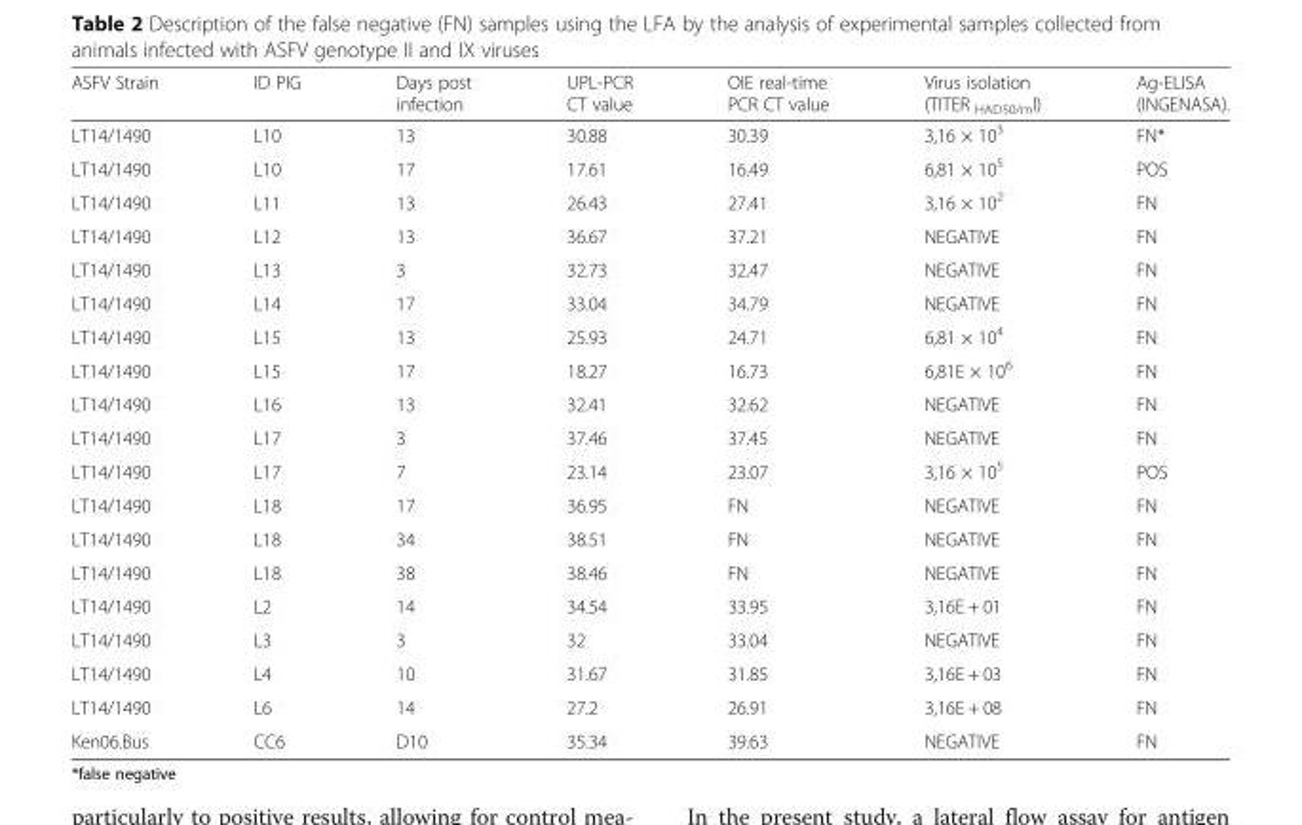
<table><thead><tr><td>ASFV Strain</td><td>ID PIG</td><td>Days post infection</td><td>UPL-PCR CT value</td><td>OIE real-time PCR CT value</td><td>Virus isolation (TITER <sub>HAD50/m</sub>l)</td><td>Ag-ELISA (INGENASA).</td></tr></thead><tbody><tr><td>LT14/1490</td><td>L10</td><td>13</td><td>30.88</td><td>30.39</td><td>3,16 × 10<sup>3</sup></td><td>FN*</td></tr><tr><td>LT14/1490</td><td>L10</td><td>17</td><td>17.61</td><td>16.49</td><td>6,81 × 10<sup>5</sup></td><td>POS</td></tr><tr><td>LT14/1490</td><td>L11</td><td>13</td><td>26.43</td><td>27.41</td><td>3,16 × 10<sup>2</sup></td><td>FN</td></tr><tr><td>LT14/1490</td><td>L12</td><td>13</td><td>36.67</td><td>37.21</td><td>NEGATIVE</td><td>FN</td></tr><tr><td>LT14/1490</td><td>L13</td><td>3</td><td>32.73</td><td>32.47</td><td>NEGATIVE</td><td>FN</td></tr><tr><td>LT14/1490</td><td>L14</td><td>17</td><td>33.04</td><td>34.79</td><td>NEGATIVE</td><td>FN</td></tr><tr><td>LT14/1490</td><td>L15</td><td>13</td><td>25.93</td><td>24.71</td><td>6,81 × 10<sup>4</sup></td><td>FN</td></tr><tr><td>LT14/1490</td><td>L15</td><td>17</td><td>18.27</td><td>16.73</td><td>6,81E × 10<sup>6</sup></td><td>FN</td></tr><tr><td>LT14/1490</td><td>L16</td><td>13</td><td>32.41</td><td>32.62</td><td>NEGATIVE</td><td>FN</td></tr><tr><td>LT14/1490</td><td>L17</td><td>3</td><td>37.46</td><td>37.45</td><td>NEGATIVE</td><td>FN</td></tr><tr><td>LT14/1490</td><td>L17</td><td>7</td><td>23.14</td><td>23.07</td><td>3,16 × 10<sup>5</sup></td><td>POS</td></tr><tr><td>LT14/1490</td><td>L18</td><td>17</td><td>36.95</td><td>FN</td><td>NEGATIVE</td><td>FN</td></tr><tr><td>LT14/1490</td><td>L18</td><td>34</td><td>38.51</td><td>FN</td><td>NEGATIVE</td><td>FN</td></tr><tr><td>LT14/1490</td><td>L18</td><td>38</td><td>38.46</td><td>FN</td><td>NEGATIVE</td><td>FN</td></tr><tr><td>LT14/1490</td><td>L2</td><td>14</td><td>34.54</td><td>33.95</td><td>3,16E + 01</td><td>FN</td></tr><tr><td>LT14/1490</td><td>L3</td><td>3</td><td>32</td><td>33.04</td><td>NEGATIVE</td><td>FN</td></tr><tr><td>LT14/1490</td><td>L4</td><td>10</td><td>31.67</td><td>31.85</td><td>3,16E + 03</td><td>FN</td></tr><tr><td>LT14/1490</td><td>L6</td><td>14</td><td>27.2</td><td>26.91</td><td>3,16E + 08</td><td>FN</td></tr><tr><td>Ken06.Bus</td><td>CC6</td><td>D10</td><td>35.34</td><td>39.63</td><td>NEGATIVE</td><td>FN</td></tr></tbody></table>